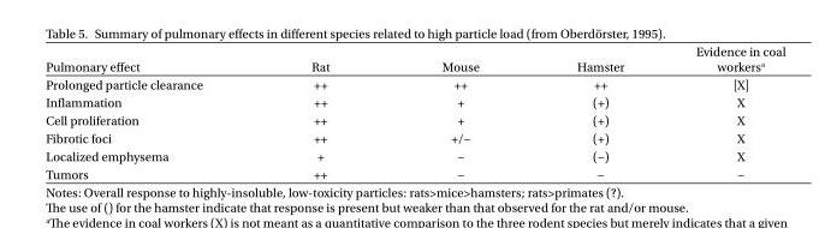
<table><thead><tr><td>Pulmonary effect</td><td>Rat</td><td>Mouse</td><td>Hamster</td><td>Evidence in coal workers<sup>a</sup></td></tr></thead><tbody><tr><td>Prolonged particle clearance</td><td>++</td><td>++</td><td>++</td><td>[X]</td></tr><tr><td>Inflammation</td><td>++</td><td>+</td><td>(+)</td><td>X</td></tr><tr><td>Cell proliferation</td><td>++</td><td>+</td><td>(+)</td><td>X</td></tr><tr><td>Fibrotic foci</td><td>++</td><td>+/−</td><td>(+)</td><td>X</td></tr><tr><td>Localized emphysema</td><td>+</td><td>−</td><td>(−)</td><td>X</td></tr><tr><td>Tumors</td><td>++</td><td>−</td><td>−</td><td>−</td></tr></tbody></table>